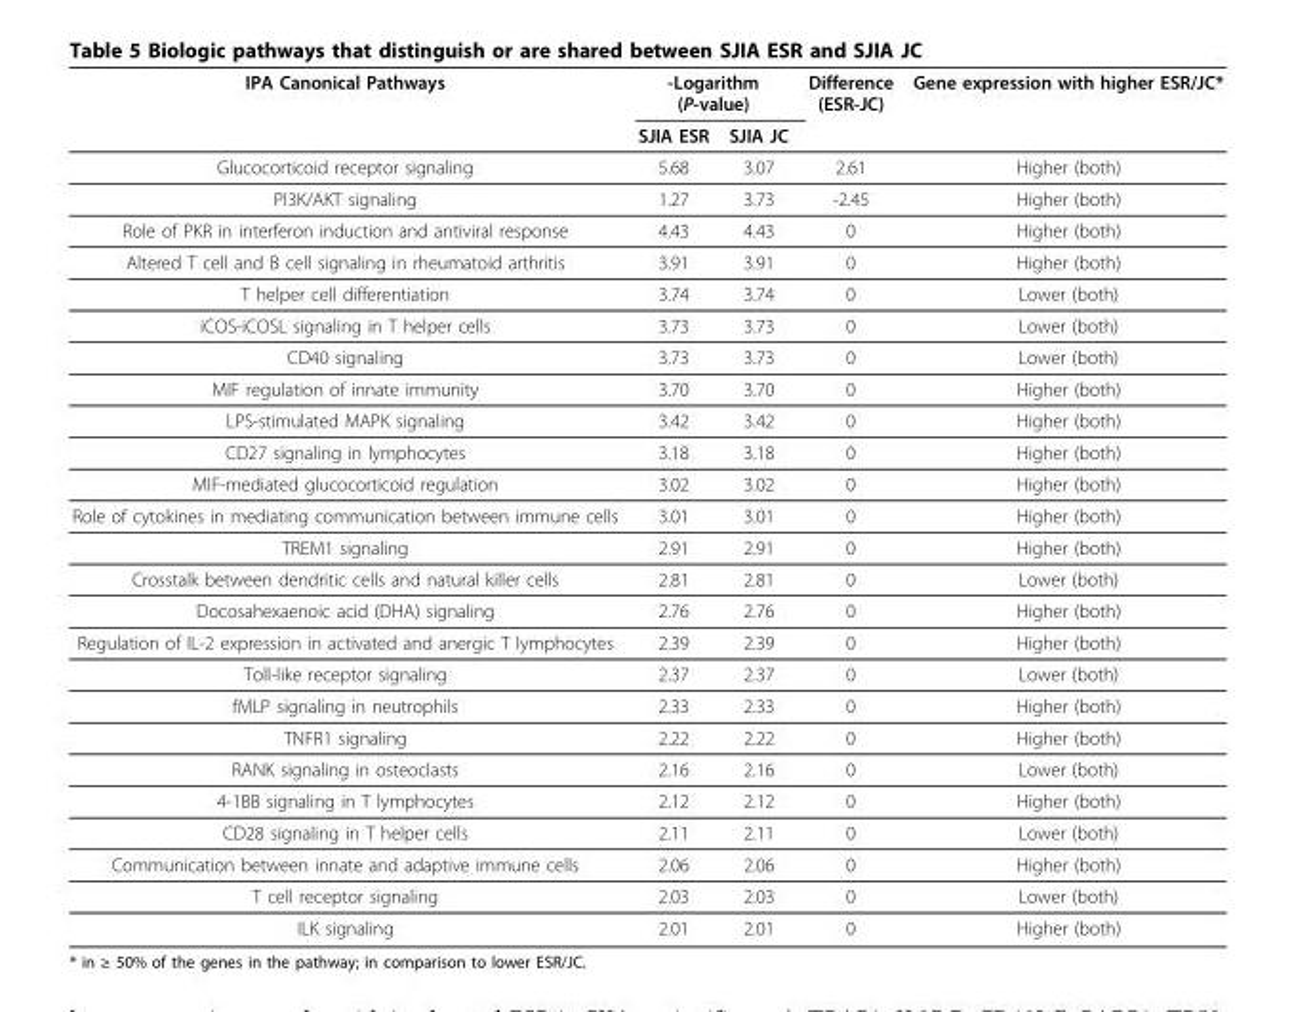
<table><thead><tr><td rowspan="2">IPA Canonical Pathways</td><td colspan="2">-Logarithm (P-value)</td><td rowspan="2">Difference (ESR-JC)</td><td rowspan="2">Gene expression with higher ESR/JC*</td></tr><tr><td>SJIA ESR</td><td>SJIA JC</td></tr></thead><tbody><tr><td>Glucocorticoid receptor signaling</td><td>5.68</td><td>3.07</td><td>2.61</td><td>Higher (both)</td></tr><tr><td>PI3K/AKT signaling</td><td>1.27</td><td>3.73</td><td>-2.45</td><td>Higher (both)</td></tr><tr><td>Role of PKR in interferon induction and antiviral response</td><td>4.43</td><td>4.43</td><td>0</td><td>Higher (both)</td></tr><tr><td>Altered T cell and B cell signaling in rheumatoid arthritis</td><td>3.91</td><td>3.91</td><td>0</td><td>Higher (both)</td></tr><tr><td>T helper cell differentiation</td><td>3.74</td><td>3.74</td><td>0</td><td>Lower (both)</td></tr><tr><td>iCOS-iCOSL signaling in T helper cells</td><td>3.73</td><td>3.73</td><td>0</td><td>Lower (both)</td></tr><tr><td>CD40 signaling</td><td>3.73</td><td>3.73</td><td>0</td><td>Lower (both)</td></tr><tr><td>MIF regulation of innate immunity</td><td>3.70</td><td>3.70</td><td>0</td><td>Higher (both)</td></tr><tr><td>LPS-stimulated MAPK signaling</td><td>3.42</td><td>3.42</td><td>0</td><td>Higher (both)</td></tr><tr><td>CD27 signaling in lymphocytes</td><td>3.18</td><td>3.18</td><td>0</td><td>Higher (both)</td></tr><tr><td>MIF-mediated glucocorticoid regulation</td><td>3.02</td><td>3.02</td><td>0</td><td>Higher (both)</td></tr><tr><td>Role of cytokines in mediating communication between immune cells</td><td>3.01</td><td>3.01</td><td>0</td><td>Higher (both)</td></tr><tr><td>TREM1 signaling</td><td>2.91</td><td>2.91</td><td>0</td><td>Higher (both)</td></tr><tr><td>Crosstalk between dendritic cells and natural killer cells</td><td>2.81</td><td>2.81</td><td>0</td><td>Lower (both)</td></tr><tr><td>Docosahexaenoic acid (DHA) signaling</td><td>2.76</td><td>2.76</td><td>0</td><td>Higher (both)</td></tr><tr><td>Regulation of IL-2 expression in activated and anergic T lymphocytes</td><td>2.39</td><td>2.39</td><td>0</td><td>Higher (both)</td></tr><tr><td>Toll-like receptor signaling</td><td>2.37</td><td>2.37</td><td>0</td><td>Lower (both)</td></tr><tr><td>fMLP signaling in neutrophils</td><td>2.33</td><td>2.33</td><td>0</td><td>Higher (both)</td></tr><tr><td>TNFR1 signaling</td><td>2.22</td><td>2.22</td><td>0</td><td>Higher (both)</td></tr><tr><td>RANK signaling in osteoclasts</td><td>2.16</td><td>2.16</td><td>0</td><td>Lower (both)</td></tr><tr><td>4-1BB signaling in T lymphocytes</td><td>2.12</td><td>2.12</td><td>0</td><td>Higher (both)</td></tr><tr><td>CD28 signaling in T helper cells</td><td>2.11</td><td>2.11</td><td>0</td><td>Lower (both)</td></tr><tr><td>Communication between innate and adaptive immune cells</td><td>2.06</td><td>2.06</td><td>0</td><td>Higher (both)</td></tr><tr><td>T cell receptor signaling</td><td>2.03</td><td>2.03</td><td>0</td><td>Lower (both)</td></tr><tr><td>ILK signaling</td><td>2.01</td><td>2.01</td><td>0</td><td>Higher (both)</td></tr></tbody></table>